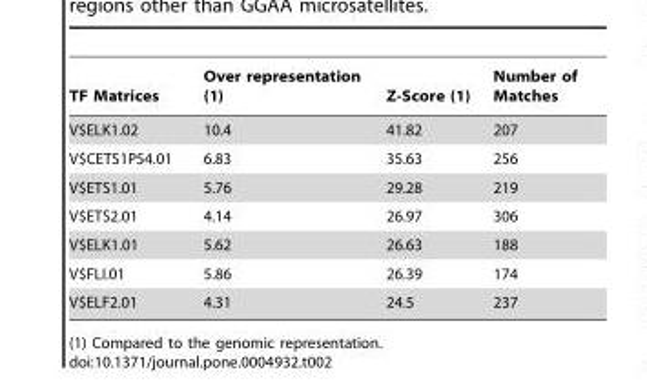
<table><thead><tr><td>TF Matrices</td><td>Over representation (1)</td><td>Z-Score (1)</td><td>Number of Matches</td></tr></thead><tbody><tr><td>V$ELK1.02</td><td>10.4</td><td>41.82</td><td>207</td></tr><tr><td>V$CETS1P54.01</td><td>6.83</td><td>35.63</td><td>256</td></tr><tr><td>V$ETS1.01</td><td>5.76</td><td>29.28</td><td>219</td></tr><tr><td>V$ETS2.01</td><td>4.14</td><td>26.97</td><td>306</td></tr><tr><td>V$ELK1.01</td><td>5.62</td><td>26.63</td><td>188</td></tr><tr><td>V$FLI.01</td><td>5.86</td><td>26.39</td><td>174</td></tr><tr><td>V$ELF2.01</td><td>4.31</td><td>24.5</td><td>237</td></tr></tbody></table>